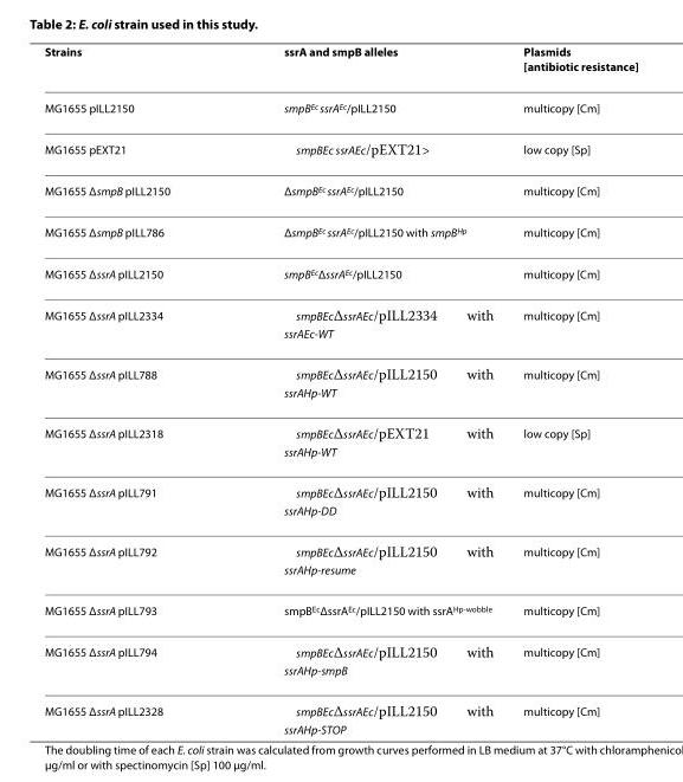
<table><thead><tr><td>Strains</td><td>ssrA and smpB alleles</td><td>Plasmids [antibiotic resistance]</td></tr></thead><tbody><tr><td>MG1655 pILL2150</td><td>smpB<sup>Ec</sup> ssrA<sup>Ec</sup>/pILL2150</td><td>multicopy [Cm]</td></tr><tr><td>MG1655 pEXT21</td><td>smpB<sup>Ec</sup> ssrA<sup>Ec</sup>/pEXT21&gt;</td><td>low copy [Sp]</td></tr><tr><td>MG1655 ΔsmpB pILL2150</td><td>ΔsmpB<sup>Ec</sup> ssrA<sup>Ec</sup>/pILL2150</td><td>multicopy [Cm]</td></tr><tr><td>MG1655 ΔsmpB pILL786</td><td>ΔsmpB<sup>Ec</sup> ssrA<sup>Ec</sup>/pILL2150 with smpB<sup>Hp</sup></td><td>multicopy [Cm]</td></tr><tr><td>MG1655 ΔssrA pILL2150</td><td>smpB<sup>Ec</sup>ΔssrA<sup>Ec</sup>/pILL2150</td><td>multicopy [Cm]</td></tr><tr><td>MG1655 ΔssrA pILL2334</td><td>smpB<sup>Ec</sup>ΔssrA<sup>Ec</sup>/pILL2334 with ssrA<sup>Ec-WT</sup></td><td>multicopy [Cm]</td></tr><tr><td>MG1655 ΔssrA pILL788</td><td>smpB<sup>Ec</sup>ΔssrA<sup>Ec</sup>/pILL2150 with ssrA<sup>Hp-WT</sup></td><td>multicopy [Cm]</td></tr><tr><td>MG1655 ΔssrA pILL2318</td><td>smpB<sup>Ec</sup>ΔssrA<sup>Ec</sup>/pEXT21 with ssrA<sup>Hp-WT</sup></td><td>low copy [Sp]</td></tr><tr><td>MG1655 ΔssrA pILL791</td><td>smpB<sup>Ec</sup>ΔssrA<sup>Ec</sup>/pILL2150 with ssrA<sup>Hp-DD</sup></td><td>multicopy [Cm]</td></tr><tr><td>MG1655 ΔssrA pILL792</td><td>smpB<sup>Ec</sup>ΔssrA<sup>Ec</sup>/pILL2150 with ssrA<sup>Hp-resume</sup></td><td>multicopy [Cm]</td></tr><tr><td>MG1655 ΔssrA pILL793</td><td>smpB<sup>Ec</sup>ΔssrA<sup>Ec</sup>/pILL2150 with ssrA<sup>Hp-wobble</sup></td><td>multicopy [Cm]</td></tr><tr><td>MG1655 ΔssrA pILL794</td><td>smpB<sup>Ec</sup>ΔssrA<sup>Ec</sup>/pILL2150 with ssrA<sup>Hp-smpB</sup></td><td>multicopy [Cm]</td></tr><tr><td>MG1655 ΔssrA pILL2328</td><td>smpB<sup>Ec</sup>ΔssrA<sup>Ec</sup>/pILL2150 with ssrA<sup>Hp-STOP</sup></td><td>multicopy [Cm]</td></tr></tbody></table>